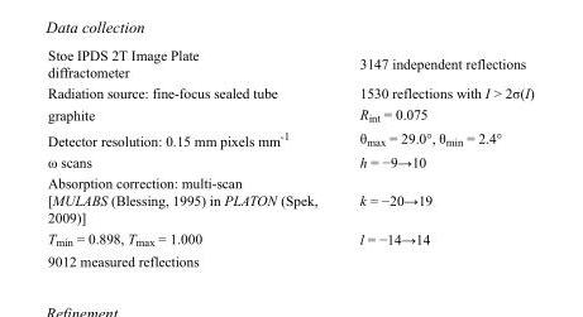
<table><tbody><tr><td>Stoe IPDS 2T Image Plate diffractometer</td><td>3147 independent reflections</td></tr><tr><td>Radiation source: fine-focus sealed tube</td><td>1530 reflections with I &gt; 2σ(I)</td></tr><tr><td>graphite</td><td>R<sub>int</sub> = 0.075</td></tr><tr><td>Detector resolution: 0.15 mm pixels mm<sup>-1</sup></td><td>θ<sub>max</sub> = 29.0°, θ<sub>min</sub> = 2.4°</td></tr><tr><td>ω scans</td><td>h = −9→10</td></tr><tr><td>Absorption correction: multi-scan [MULABS (Blessing, 1995) in PLATON (Spek, 2009)]</td><td>k = −20→19</td></tr><tr><td>T<sub>min</sub> = 0.898, T<sub>max</sub> = 1.000</td><td>l = −14→14</td></tr><tr><td>9012 measured reflections</td><td></td></tr></tbody></table>